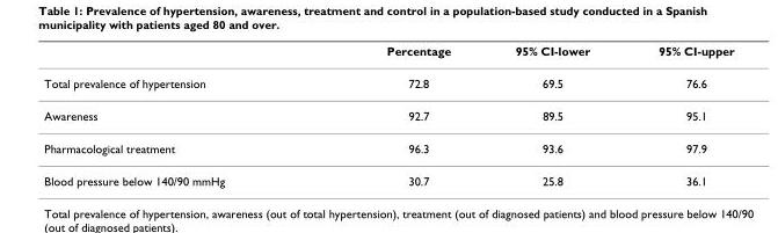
<table><thead><tr><td></td><td>Percentage</td><td>95% CI-lower</td><td>95% CI-upper</td></tr></thead><tbody><tr><td>Total prevalence of hypertension</td><td>72.8</td><td>69.5</td><td>76.6</td></tr><tr><td>Awareness</td><td>92.7</td><td>89.5</td><td>95.1</td></tr><tr><td>Pharmacological treatment</td><td>96.3</td><td>93.6</td><td>97.9</td></tr><tr><td>Blood pressure below 140/90 mmHg</td><td>30.7</td><td>25.8</td><td>36.1</td></tr></tbody></table>